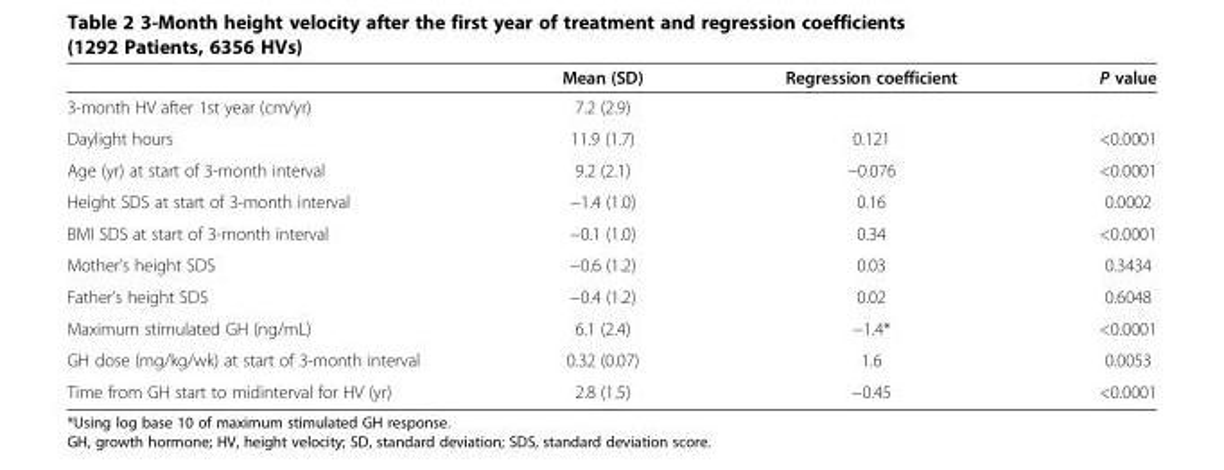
<table><thead><tr><td></td><td>Mean (SD)</td><td>Regression coefficient</td><td>P value</td></tr></thead><tbody><tr><td>3-month HV after 1st year (cm/yr)</td><td>7.2 (2.9)</td><td></td><td></td></tr><tr><td>Daylight hours</td><td>11.9 (1.7)</td><td>0.121</td><td>&lt;0.0001</td></tr><tr><td>Age (yr) at start of 3-month interval</td><td>9.2 (2.1)</td><td>−0.076</td><td>&lt;0.0001</td></tr><tr><td>Height SDS at start of 3-month interval</td><td>−1.4 (1.0)</td><td>0.16</td><td>0.0002</td></tr><tr><td>BMI SDS at start of 3-month interval</td><td>−0.1 (1.0)</td><td>0.34</td><td>&lt;0.0001</td></tr><tr><td>Mother’s height SDS</td><td>−0.6 (1.2)</td><td>0.03</td><td>0.3434</td></tr><tr><td>Father’s height SDS</td><td>−0.4 (1.2)</td><td>0.02</td><td>0.6048</td></tr><tr><td>Maximum stimulated GH (ng/mL)</td><td>6.1 (2.4)</td><td>−1.4*</td><td>&lt;0.0001</td></tr><tr><td>GH dose (mg/kg/wk) at start of 3-month interval</td><td>0.32 (0.07)</td><td>1.6</td><td>0.0053</td></tr><tr><td>Time from GH start to midinterval for HV (yr)</td><td>2.8 (1.5)</td><td>−0.45</td><td>&lt;0.0001</td></tr></tbody></table>